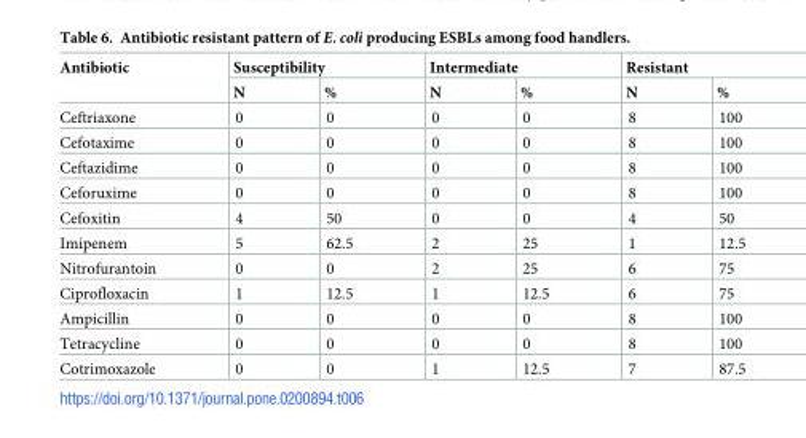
<table><thead><tr><td rowspan="2">Antibiotic</td><td colspan="2">Susceptibility</td><td colspan="2">Intermediate</td><td colspan="2">Resistant</td></tr><tr><td>N</td><td>%</td><td>N</td><td>%</td><td>N</td><td>%</td></tr></thead><tbody><tr><td>Ceftriaxone</td><td>0</td><td>0</td><td>0</td><td>0</td><td>8</td><td>100</td></tr><tr><td>Cefotaxime</td><td>0</td><td>0</td><td>0</td><td>0</td><td>8</td><td>100</td></tr><tr><td>Ceftazidime</td><td>0</td><td>0</td><td>0</td><td>0</td><td>8</td><td>100</td></tr><tr><td>Ceforuxime</td><td>0</td><td>0</td><td>0</td><td>0</td><td>8</td><td>100</td></tr><tr><td>Cefoxitin</td><td>4</td><td>50</td><td>0</td><td>0</td><td>4</td><td>50</td></tr><tr><td>Imipenem</td><td>5</td><td>62.5</td><td>2</td><td>25</td><td>1</td><td>12.5</td></tr><tr><td>Nitrofurantoin</td><td>0</td><td>0</td><td>2</td><td>25</td><td>6</td><td>75</td></tr><tr><td>Ciprofloxacin</td><td>1</td><td>12.5</td><td>1</td><td>12.5</td><td>6</td><td>75</td></tr><tr><td>Ampicillin</td><td>0</td><td>0</td><td>0</td><td>0</td><td>8</td><td>100</td></tr><tr><td>Tetracycline</td><td>0</td><td>0</td><td>0</td><td>0</td><td>8</td><td>100</td></tr><tr><td>Cotrimoxazole</td><td>0</td><td>0</td><td>1</td><td>12.5</td><td>7</td><td>87.5</td></tr></tbody></table>